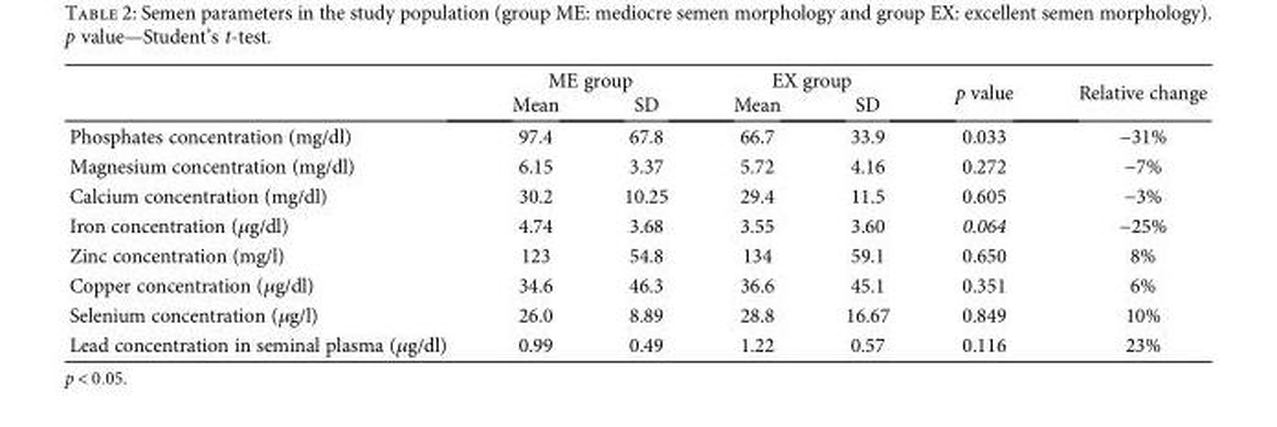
<table><thead><tr><td rowspan="2"></td><td colspan="2">ME group</td><td colspan="2">EX group</td><td rowspan="2">p value</td><td rowspan="2">Relative change</td></tr><tr><td>Mean</td><td>SD</td><td>Mean</td><td>SD</td></tr></thead><tbody><tr><td>Phosphates concentration (mg/dl)</td><td>97.4</td><td>67.8</td><td>66.7</td><td>33.9</td><td>0.033</td><td>−31%</td></tr><tr><td>Magnesium concentration (mg/dl)</td><td>6.15</td><td>3.37</td><td>5.72</td><td>4.16</td><td>0.272</td><td>−7%</td></tr><tr><td>Calcium concentration (mg/dl)</td><td>30.2</td><td>10.25</td><td>29.4</td><td>11.5</td><td>0.605</td><td>−3%</td></tr><tr><td>Iron concentration (μg/dl)</td><td>4.74</td><td>3.68</td><td>3.55</td><td>3.60</td><td>0.064</td><td>−25%</td></tr><tr><td>Zinc concentration (mg/l)</td><td>123</td><td>54.8</td><td>134</td><td>59.1</td><td>0.650</td><td>8%</td></tr><tr><td>Copper concentration (μg/dl)</td><td>34.6</td><td>46.3</td><td>36.6</td><td>45.1</td><td>0.351</td><td>6%</td></tr><tr><td>Selenium concentration (μg/l)</td><td>26.0</td><td>8.89</td><td>28.8</td><td>16.67</td><td>0.849</td><td>10%</td></tr><tr><td>Lead concentration in seminal plasma (μg/dl)</td><td>0.99</td><td>0.49</td><td>1.22</td><td>0.57</td><td>0.116</td><td>23%</td></tr></tbody></table>